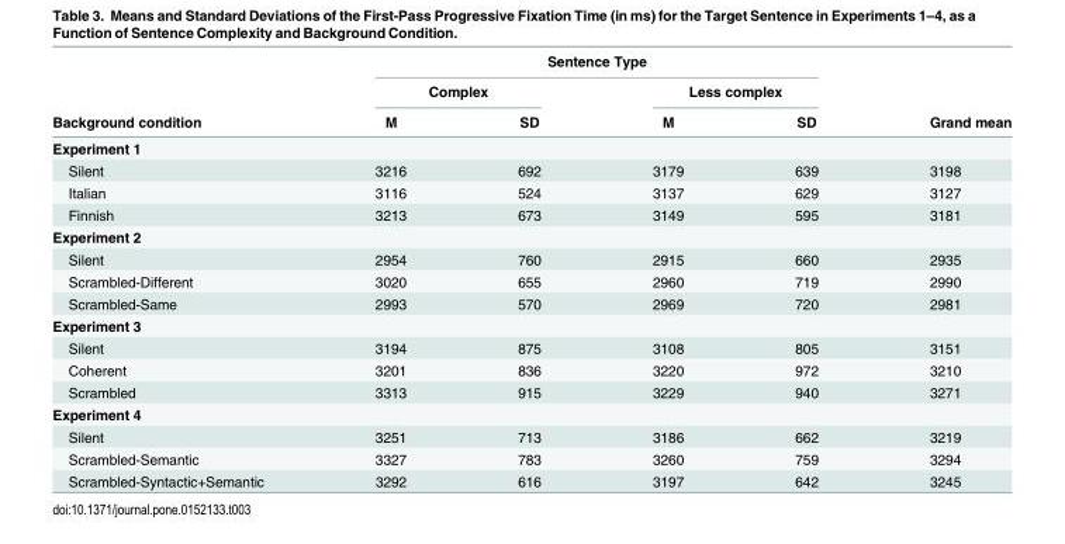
<table><thead><tr><td rowspan="3">Background condition</td><td colspan="4">Sentence Type</td><td rowspan="3">Grand mean</td></tr><tr><td colspan="2">Complex</td><td colspan="2">Less complex</td></tr><tr><td>M</td><td>SD</td><td>M</td><td>SD</td></tr></thead><tbody><tr><td colspan="6">Experiment 1</td></tr><tr><td>Silent</td><td>3216</td><td>692</td><td>3179</td><td>639</td><td>3198</td></tr><tr><td>Italian</td><td>3116</td><td>524</td><td>3137</td><td>629</td><td>3127</td></tr><tr><td>Finnish</td><td>3213</td><td>673</td><td>3149</td><td>595</td><td>3181</td></tr><tr><td colspan="6">Experiment 2</td></tr><tr><td>Silent</td><td>2954</td><td>760</td><td>2915</td><td>660</td><td>2935</td></tr><tr><td>Scrambled-Different</td><td>3020</td><td>655</td><td>2960</td><td>719</td><td>2990</td></tr><tr><td>Scrambled-Same</td><td>2993</td><td>570</td><td>2969</td><td>720</td><td>2981</td></tr><tr><td colspan="6">Experiment 3</td></tr><tr><td>Silent</td><td>3194</td><td>875</td><td>3108</td><td>805</td><td>3151</td></tr><tr><td>Coherent</td><td>3201</td><td>836</td><td>3220</td><td>972</td><td>3210</td></tr><tr><td>Scrambled</td><td>3313</td><td>915</td><td>3229</td><td>940</td><td>3271</td></tr><tr><td colspan="6">Experiment 4</td></tr><tr><td>Silent</td><td>3251</td><td>713</td><td>3186</td><td>662</td><td>3219</td></tr><tr><td>Scrambled-Semantic</td><td>3327</td><td>783</td><td>3260</td><td>759</td><td>3294</td></tr><tr><td>Scrambled-Syntactic+Semantic</td><td>3292</td><td>616</td><td>3197</td><td>642</td><td>3245</td></tr></tbody></table>